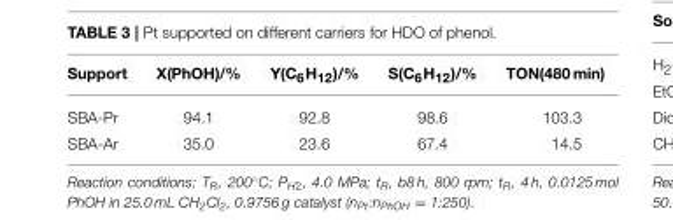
<table><thead><tr><td>Support</td><td>X(PhOH)/%</td><td>Y(C<sub>6</sub>H<sub>12</sub>)/%</td><td>S(C<sub>6</sub>H<sub>12</sub>)/%</td><td>TON(480 min)</td></tr></thead><tbody><tr><td>SBA-Pr</td><td>94.1</td><td>92.8</td><td>98.6</td><td>103.3</td></tr><tr><td>SBA-Ar</td><td>35.0</td><td>23.6</td><td>67.4</td><td>14.5</td></tr></tbody></table>